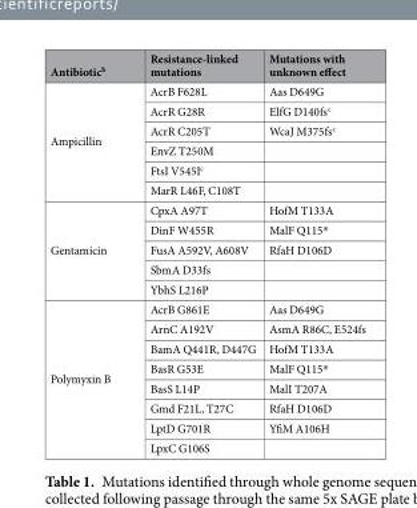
<table><thead><tr><td>Antibiotic<sup>b</sup></td><td>Resistance-linked mutations</td><td>Mutations with unknown effect</td></tr></thead><tbody><tr><td rowspan="6">Ampicillin</td><td>AcrB F628L</td><td>Aas D649G</td></tr><tr><td>AcrR G28R</td><td>ElfG D140fs<sup>c</sup></td></tr><tr><td>AcrR C205T</td><td>WcaJ M375fs<sup>c</sup></td></tr><tr><td>EnvZ T250M</td><td></td></tr><tr><td>FtsI V545I<sup>c</sup></td><td></td></tr><tr><td>MarR L46F, C108T</td><td></td></tr><tr><td rowspan="5">Gentamicin</td><td>CpxA A97T</td><td>HofM T133A</td></tr><tr><td>DinF W455R</td><td>MalF Q115*</td></tr><tr><td>FusA A592V, A608V</td><td>RfaH D106D</td></tr><tr><td>SbmA D33fs</td><td></td></tr><tr><td>YbhS L216P</td><td></td></tr><tr><td rowspan="8">Polymyxin B</td><td>AcrB G861E</td><td>Aas D649G</td></tr><tr><td>ArnC A192V</td><td>AsmA R86C, E524fs</td></tr><tr><td>BamA Q441R, D447G</td><td>HofM T133A</td></tr><tr><td>BasR G53E</td><td>MalF Q115*</td></tr><tr><td>BasS L14P</td><td>MalI T207A</td></tr><tr><td>Gmd F21L, T27C</td><td>RfaH D106D</td></tr><tr><td>LptD G701R</td><td>YfiM A106H</td></tr><tr><td>LpxC G106S</td><td></td></tr></tbody></table>